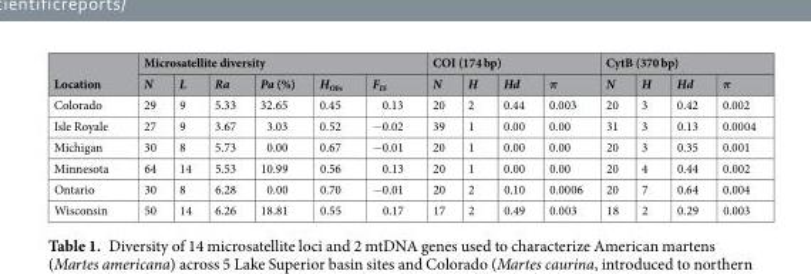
<table><thead><tr><td rowspan="2">Location</td><td colspan="6">Microsatellite diversity</td><td colspan="4">COI (174 bp)</td><td colspan="4">CytB (370 bp)</td></tr><tr><td>N</td><td>L</td><td>Ra</td><td>Pa (%)</td><td>H<sub>Obs</sub></td><td>F<sub>IS</sub></td><td>N</td><td>H</td><td>Hd</td><td>π</td><td>N</td><td>H</td><td>Hd</td><td>π</td></tr></thead><tbody><tr><td>Colorado</td><td>29</td><td>9</td><td>5.33</td><td>32.65</td><td>0.45</td><td>0.13</td><td>20</td><td>2</td><td>0.44</td><td>0.003</td><td>20</td><td>3</td><td>0.42</td><td>0.002</td></tr><tr><td>Isle Royale</td><td>27</td><td>9</td><td>3.67</td><td>3.03</td><td>0.52</td><td>−0.02</td><td>39</td><td>1</td><td>0.00</td><td>0.00</td><td>31</td><td>3</td><td>0.13</td><td>0.0004</td></tr><tr><td>Michigan</td><td>30</td><td>8</td><td>5.73</td><td>0.00</td><td>0.67</td><td>−0.01</td><td>20</td><td>1</td><td>0.00</td><td>0.00</td><td>20</td><td>3</td><td>0.35</td><td>0.001</td></tr><tr><td>Minnesota</td><td>64</td><td>14</td><td>5.53</td><td>10.99</td><td>0.56</td><td>0.13</td><td>20</td><td>1</td><td>0.00</td><td>0.00</td><td>20</td><td>4</td><td>0.44</td><td>0.002</td></tr><tr><td>Ontario</td><td>30</td><td>8</td><td>6.28</td><td>0.00</td><td>0.70</td><td>−0.01</td><td>20</td><td>2</td><td>0.10</td><td>0.0006</td><td>20</td><td>7</td><td>0.64</td><td>0.004</td></tr><tr><td>Wisconsin</td><td>50</td><td>14</td><td>6.26</td><td>18.81</td><td>0.55</td><td>0.17</td><td>17</td><td>2</td><td>0.49</td><td>0.003</td><td>18</td><td>2</td><td>0.29</td><td>0.003</td></tr></tbody></table>